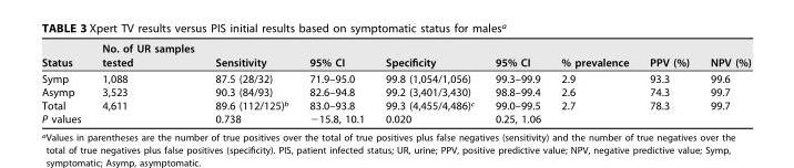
<table><thead><tr><td>Status</td><td>No. of UR samples tested</td><td>Sensitivity</td><td>95% CI</td><td>Specificity</td><td>95% CI</td><td>% prevalence</td><td>PPV (%)</td><td>NPV (%)</td></tr></thead><tbody><tr><td>Symp</td><td>1,088</td><td>87.5 (28/32)</td><td>71.9–95.0</td><td>99.8 (1,054/1,056)</td><td>99.3–99.9</td><td>2.9</td><td>93.3</td><td>99.6</td></tr><tr><td>Asymp</td><td>3,523</td><td>90.3 (84/93)</td><td>82.6–94.8</td><td>99.2 (3,401/3,430)</td><td>98.8–99.4</td><td>2.6</td><td>74.3</td><td>99.7</td></tr><tr><td>Total</td><td>4,611</td><td>89.6 (112/125)<sup>b</sup></td><td>83.0–93.8</td><td>99.3 (4,455/4,486)<sup>c</sup></td><td>99.0–99.5</td><td>2.7</td><td>78.3</td><td>99.7</td></tr><tr><td>P values</td><td></td><td>0.738</td><td>−15.8, 10.1</td><td>0.020</td><td>0.25, 1.06</td><td colspan="3"></td></tr></tbody></table>